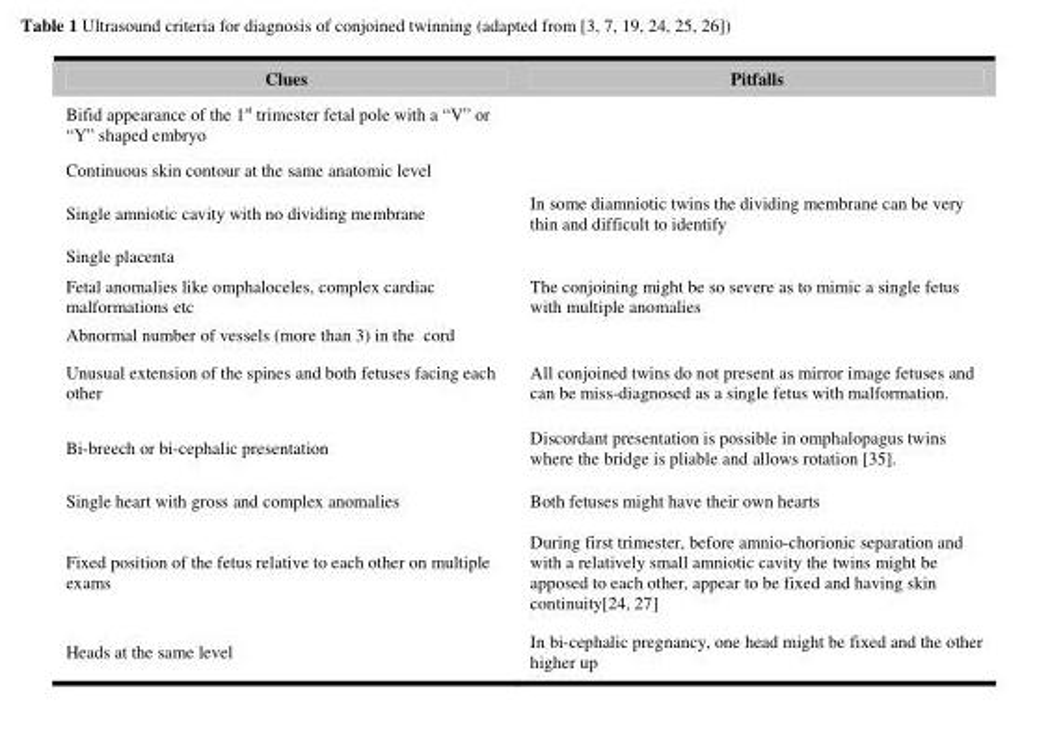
<table><thead><tr><td>Clues</td><td>Pitfalls</td></tr></thead><tbody><tr><td colspan="2">Bifid appearance of the 1<sup>st</sup> trimester fetal pole with a “V” or “Y” shaped embryo</td></tr><tr><td colspan="2">Continuous skin contour at the same anatomic level</td></tr><tr><td>Single amniotic cavity with no dividing membrane</td><td>In some diamniotic twins the dividing membrane can be very thin and difficult to identify</td></tr><tr><td colspan="2">Single placenta</td></tr><tr><td>Fetal anomalies like omphaloceles, complex cardiac malformations etc</td><td>The conjoining might be so severe as to mimic a single fetus with multiple anomalies</td></tr><tr><td colspan="2">Abnormal number of vessels (more than 3) in the cord</td></tr><tr><td>Unusual extension of the spines and both fetuses facing each other</td><td>All conjoined twins do not present as mirror image fetuses and can be miss-diagnosed as a single fetus with malformation.</td></tr><tr><td>Bi-breech or bi-cephalic presentation</td><td>Discordant presentation is possible in omphalopagus twins where the bridge is pliable and allows rotation [35].</td></tr><tr><td>Single heart with gross and complex anomalies</td><td>Both fetuses might have their own hearts</td></tr><tr><td>Fixed position of the fetus relative to each other on multiple exams</td><td>During first trimester, before amnio-chorionic separation and with a relatively small amniotic cavity the twins might be apposed to each other, appear to be fixed and having skin continuity[24, 27]</td></tr><tr><td>Heads at the same level</td><td>In bi-cephalic pregnancy, one head might be fixed and the other higher up</td></tr></tbody></table>